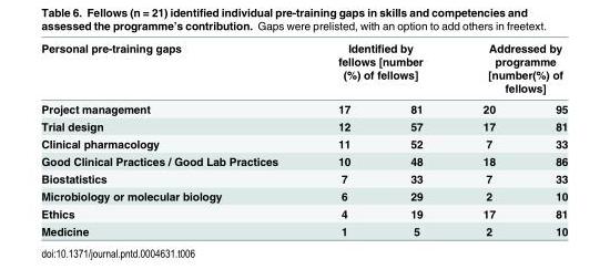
<table><thead><tr><td rowspan="2">Personal pre-training gaps Project management</td><td colspan="2">Identified by fellows [number (%) of fellows]</td><td colspan="2">Addressed by programme [number(%) of fellows]</td></tr><tr><td>17</td><td>81</td><td>20</td><td>95</td></tr></thead><tbody><tr><td>Trial design</td><td>12</td><td>57</td><td>17</td><td>81</td></tr><tr><td>Clinical pharmacology</td><td>11</td><td>52</td><td>7</td><td>33</td></tr><tr><td>Good Clinical Practices / Good Lab Practices</td><td>10</td><td>48</td><td>18</td><td>86</td></tr><tr><td>Biostatistics</td><td>7</td><td>33</td><td>7</td><td>33</td></tr><tr><td>Microbiology or molecular biology</td><td>6</td><td>29</td><td>2</td><td>10</td></tr><tr><td>Ethics</td><td>4</td><td>19</td><td>17</td><td>81</td></tr><tr><td>Medicine</td><td>1</td><td>5</td><td>2</td><td>10</td></tr></tbody></table>